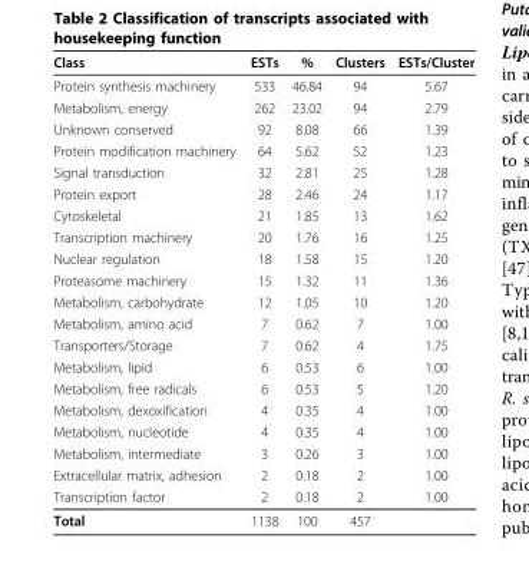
<table><thead><tr><td>Class</td><td>ESTs</td><td>%</td><td>Clusters</td><td>ESTs/Cluster</td></tr></thead><tbody><tr><td>Protein synthesis machinery</td><td>533</td><td>46.84</td><td>94</td><td>5.67</td></tr><tr><td>Metabolism, energy</td><td>262</td><td>23.02</td><td>94</td><td>2.79</td></tr><tr><td>Unknown conserved</td><td>92</td><td>8.08</td><td>66</td><td>1.39</td></tr><tr><td>Protein modification machinery</td><td>64</td><td>5.62</td><td>52</td><td>1.23</td></tr><tr><td>Signal transduction</td><td>32</td><td>2.81</td><td>25</td><td>1.28</td></tr><tr><td>Protein export</td><td>28</td><td>2.46</td><td>24</td><td>1.17</td></tr><tr><td>Cytoskeletal</td><td>21</td><td>1.85</td><td>13</td><td>1.62</td></tr><tr><td>Transcription machinery</td><td>20</td><td>1.76</td><td>16</td><td>1.25</td></tr><tr><td>Nuclear regulation</td><td>18</td><td>1.58</td><td>15</td><td>1.20</td></tr><tr><td>Proteasome machinery</td><td>15</td><td>1.32</td><td>11</td><td>1.36</td></tr><tr><td>Metabolism, carbohydrate</td><td>12</td><td>1.05</td><td>10</td><td>1.20</td></tr><tr><td>Metabolism, amino acid</td><td>7</td><td>0.62</td><td>7</td><td>1.00</td></tr><tr><td>Transporters/Storage</td><td>7</td><td>0.62</td><td>4</td><td>1.75</td></tr><tr><td>Metabolism, lipid</td><td>6</td><td>0.53</td><td>6</td><td>1.00</td></tr><tr><td>Metabolism, free radicals</td><td>6</td><td>0.53</td><td>5</td><td>1.20</td></tr><tr><td>Metabolism, dexoxification</td><td>4</td><td>0.35</td><td>4</td><td>1.00</td></tr><tr><td>Metabolism, nucleotide</td><td>4</td><td>0.35</td><td>4</td><td>1.00</td></tr><tr><td>Metabolism, intermediate</td><td>3</td><td>0.26</td><td>3</td><td>1.00</td></tr><tr><td>Extracellular matrix, adhesion</td><td>2</td><td>0.18</td><td>2</td><td>1.00</td></tr><tr><td>Transcription factor</td><td>2</td><td>0.18</td><td>2</td><td>1.00</td></tr><tr><td>Total</td><td>1138</td><td>100</td><td>457</td><td></td></tr></tbody></table>